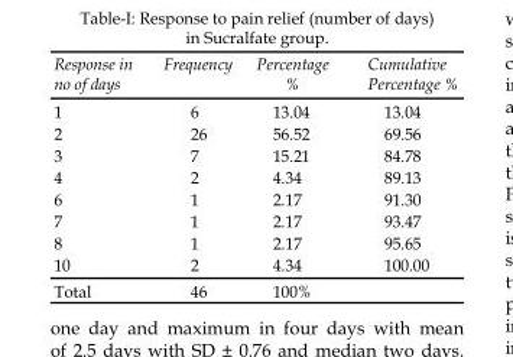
<table><thead><tr><td>Response in no of days</td><td>Frequency</td><td>Percentage %</td><td>Cumulative Percentage %</td></tr></thead><tbody><tr><td>1</td><td>6</td><td>13.04</td><td>13.04</td></tr><tr><td>2</td><td>26</td><td>56.52</td><td>69.56</td></tr><tr><td>3</td><td>7</td><td>15.21</td><td>84.78</td></tr><tr><td>4</td><td>2</td><td>4.34</td><td>89.13</td></tr><tr><td>6</td><td>1</td><td>2.17</td><td>91.30</td></tr><tr><td>7</td><td>1</td><td>2.17</td><td>93.47</td></tr><tr><td>8</td><td>1</td><td>2.17</td><td>95.65</td></tr><tr><td>10</td><td>2</td><td>4.34</td><td>100.00</td></tr><tr><td>Total</td><td>46</td><td>100%</td><td></td></tr></tbody></table>